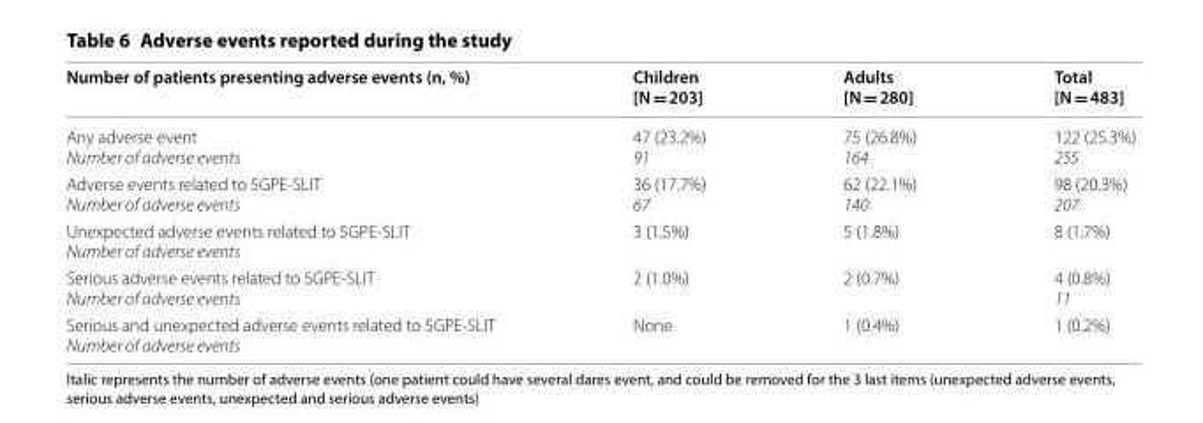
<table><thead><tr><td>Number of patients presenting adverse events (n, %)</td><td>Children [N = 203]</td><td>Adults [N = 280]</td><td>Total [N = 483]</td></tr></thead><tbody><tr><td>Any adverse event Number of adverse events</td><td>47 (23.2%) 91</td><td>75 (26.8%) 164</td><td>122 (25.3%) 255</td></tr><tr><td>Adverse events related to 5GPE‑SLIT Number of adverse events</td><td>36 (17.7%) 67</td><td>62 (22.1%) 140</td><td>98 (20.3%) 207</td></tr><tr><td>Unexpected adverse events related to 5GPE‑SLIT Number of adverse events</td><td>3 (1.5%)</td><td>5 (1.8%)</td><td>8 (1.7%)</td></tr><tr><td>Serious adverse events related to 5GPE‑SLIT Number of adverse events</td><td>2 (1.0%)</td><td>2 (0.7%)</td><td>4 (0.8%) 11</td></tr><tr><td>Serious and unexpected adverse events related to 5GPE‑SLIT Number of adverse events</td><td>None</td><td>1 (0.4%)</td><td>1 (0.2%)</td></tr></tbody></table>